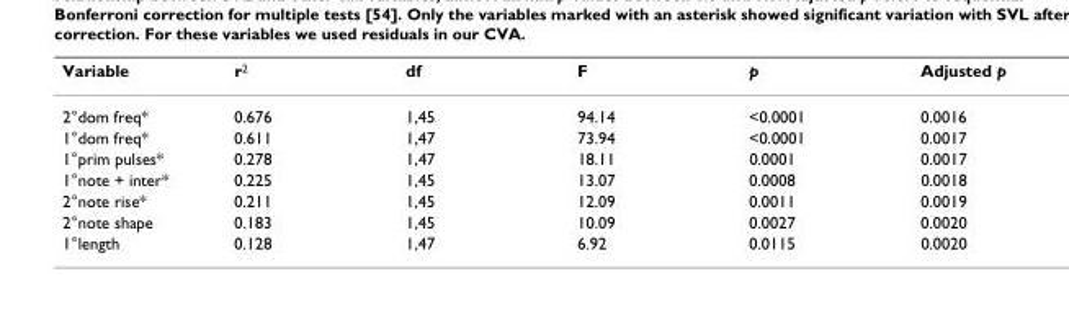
<table><thead><tr><td>Variable</td><td>r<sup>2</sup></td><td>df</td><td>F</td><td>p</td><td>Adjusted p</td></tr></thead><tbody><tr><td>2°dom freq*</td><td>0.676</td><td>1,45</td><td>94.14</td><td>&lt;0.0001</td><td>0.0016</td></tr><tr><td>1°dom freq*</td><td>0.611</td><td>1,47</td><td>73.94</td><td>&lt;0.0001</td><td>0.0017</td></tr><tr><td>1°prim pulses*</td><td>0.278</td><td>1,47</td><td>18.11</td><td>0.0001</td><td>0.0017</td></tr><tr><td>1°note + inter*</td><td>0.225</td><td>1,45</td><td>13.07</td><td>0.0008</td><td>0.0018</td></tr><tr><td>2°note rise*</td><td>0.211</td><td>1,45</td><td>12.09</td><td>0.0011</td><td>0.0019</td></tr><tr><td>2°note shape</td><td>0.183</td><td>1,45</td><td>10.09</td><td>0.0027</td><td>0.0020</td></tr><tr><td>1°length</td><td>0.128</td><td>1,47</td><td>6.92</td><td>0.0115</td><td>0.0020</td></tr></tbody></table>